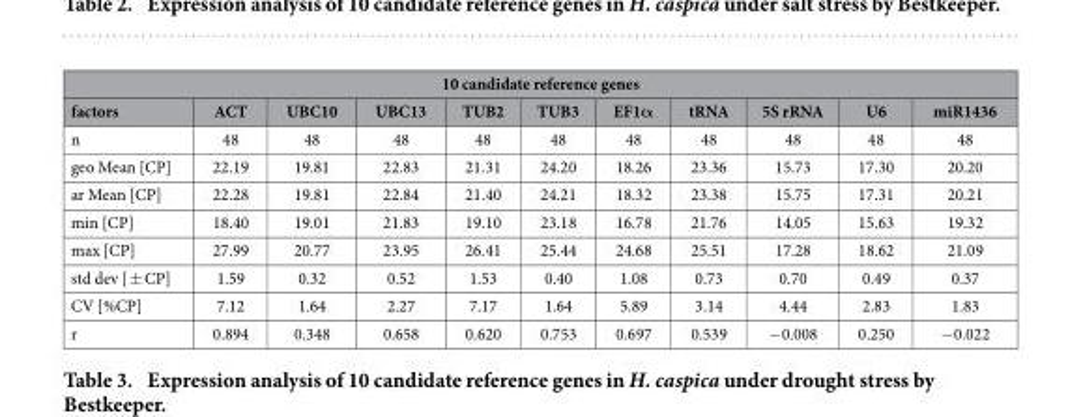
<table><thead><tr><td colspan="11">10 candidate reference genes</td></tr><tr><td>factors</td><td>ACT</td><td>UBC10</td><td>UBC13</td><td>TUB2</td><td>TUB3</td><td>EF1α</td><td>tRNA</td><td>5S rRNA</td><td>U6</td><td>miR1436</td></tr></thead><tbody><tr><td>n</td><td>48</td><td>48</td><td>48</td><td>48</td><td>48</td><td>48</td><td>48</td><td>48</td><td>48</td><td>48</td></tr><tr><td>geo Mean [CP]</td><td>22.19</td><td>19.81</td><td>22.83</td><td>21.31</td><td>24.20</td><td>18.26</td><td>23.36</td><td>15.73</td><td>17.30</td><td>20.20</td></tr><tr><td>ar Mean [CP]</td><td>22.28</td><td>19.81</td><td>22.84</td><td>21.40</td><td>24.21</td><td>18.32</td><td>23.38</td><td>15.75</td><td>17.31</td><td>20.21</td></tr><tr><td>min [CP]</td><td>18.40</td><td>19.01</td><td>21.83</td><td>19.10</td><td>23.18</td><td>16.78</td><td>21.76</td><td>14.05</td><td>15.63</td><td>19.32</td></tr><tr><td>max [CP]</td><td>27.99</td><td>20.77</td><td>23.95</td><td>26.41</td><td>25.44</td><td>24.68</td><td>25.51</td><td>17.28</td><td>18.62</td><td>21.09</td></tr><tr><td>std dev [ ± CP]</td><td>1.59</td><td>0.32</td><td>0.52</td><td>1.53</td><td>0.40</td><td>1.08</td><td>0.73</td><td>0.70</td><td>0.49</td><td>0.37</td></tr><tr><td>CV [%CP]</td><td>7.12</td><td>1.64</td><td>2.27</td><td>7.17</td><td>1.64</td><td>5.89</td><td>3.14</td><td>4.44</td><td>2.83</td><td>1.83</td></tr><tr><td>r</td><td>0.894</td><td>0.348</td><td>0.658</td><td>0.620</td><td>0.753</td><td>0.697</td><td>0.539</td><td>− 0.008</td><td>0.250</td><td>− 0.022</td></tr></tbody></table>